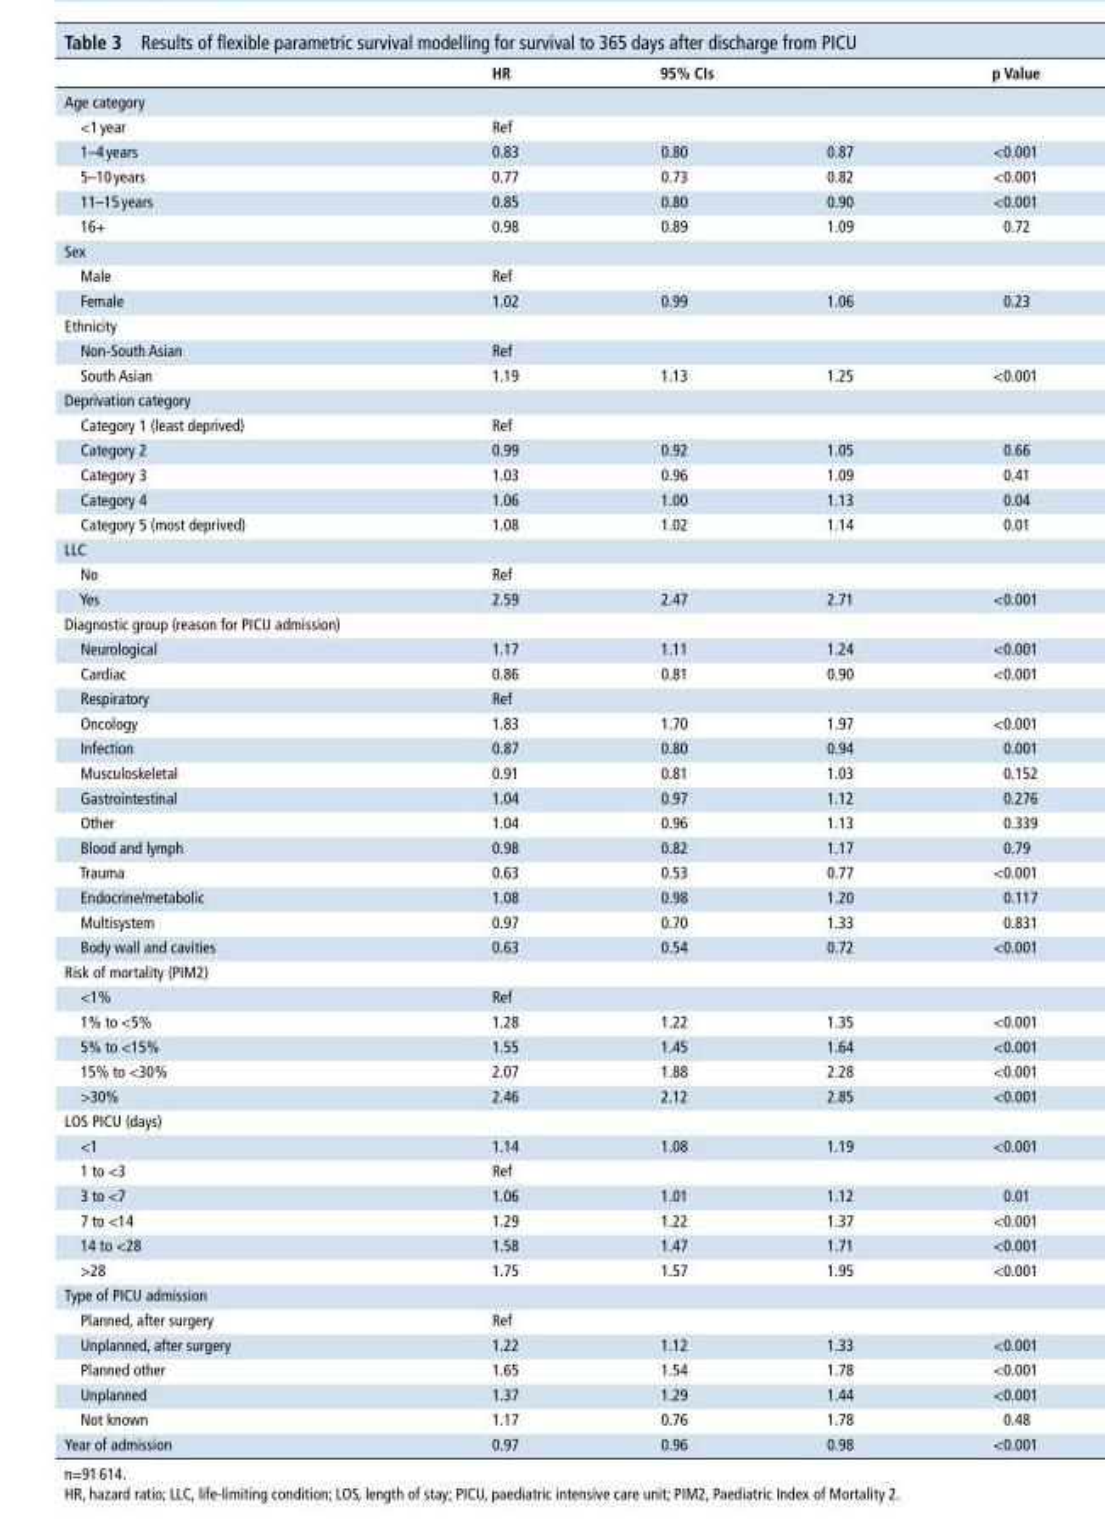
<table><thead><tr><td rowspan="2">Age category</td><td rowspan="2">hr</td><td colspan="2">95% CIs</td><td rowspan="2">p Value</td></tr><tr><td></td><td></td></tr></thead><tbody><tr><td>&lt;1 year</td><td colspan="4">Ref</td></tr><tr><td>1–4 years</td><td>0.83</td><td>0.80</td><td>0.87</td><td>&lt;0.001</td></tr><tr><td>5–10 years</td><td>0.77</td><td>0.73</td><td>0.82</td><td>&lt;0.001</td></tr><tr><td>11–15 years</td><td>0.85</td><td>0.80</td><td>0.90</td><td>&lt;0.001</td></tr><tr><td>16+</td><td>0.98</td><td>0.89</td><td>1.09</td><td>0.72</td></tr><tr><td colspan="5">Sex</td></tr><tr><td>Male</td><td colspan="4">Ref</td></tr><tr><td>Female</td><td>1.02</td><td>0.99</td><td>1.06</td><td>0.23</td></tr><tr><td colspan="5">Ethnicity</td></tr><tr><td>Non-South Asian</td><td colspan="4">Ref</td></tr><tr><td>South Asian</td><td>1.19</td><td>1.13</td><td>1.25</td><td>&lt;0.001</td></tr><tr><td colspan="5">Deprivation category</td></tr><tr><td>Category 1 (least deprived)</td><td colspan="4">Ref</td></tr><tr><td>Category 2</td><td>0.99</td><td>0.92</td><td>1.05</td><td>0.66</td></tr><tr><td>Category 3</td><td>1.03</td><td>0.96</td><td>1.09</td><td>0.41</td></tr><tr><td>Category 4</td><td>1.06</td><td>1.00</td><td>1.13</td><td>0.04</td></tr><tr><td>Category 5 (most deprived)</td><td>1.08</td><td>1.02</td><td>1.14</td><td>0.01</td></tr><tr><td colspan="5">LLC</td></tr><tr><td>No</td><td colspan="4">Ref</td></tr><tr><td>Yes</td><td>2.59</td><td>2.47</td><td>2.71</td><td>&lt;0.001</td></tr><tr><td colspan="5">Diagnostic group (reason for PICU admission)</td></tr><tr><td>Neurological</td><td>1.17</td><td>1.11</td><td>1.24</td><td>&lt;0.001</td></tr><tr><td>Cardiac</td><td>0.86</td><td>0.81</td><td>0.90</td><td>&lt;0.001</td></tr><tr><td>Respiratory</td><td colspan="4">Ref</td></tr><tr><td>Oncology</td><td>1.83</td><td>1.70</td><td>1.97</td><td>&lt;0.001</td></tr><tr><td>Infection</td><td>0.87</td><td>0.80</td><td>0.94</td><td>0.001</td></tr><tr><td>Musculoskeletal</td><td>0.91</td><td>0.81</td><td>1.03</td><td>0.152</td></tr><tr><td>Gastrointestinal</td><td>1.04</td><td>0.97</td><td>1.12</td><td>0.276</td></tr><tr><td>Other</td><td>1.04</td><td>0.96</td><td>1.13</td><td>0.339</td></tr><tr><td>Blood and lymph</td><td>0.98</td><td>0.82</td><td>1.17</td><td>0.79</td></tr><tr><td>Trauma</td><td>0.63</td><td>0.53</td><td>0.77</td><td>&lt;0.001</td></tr><tr><td>Endocrine/metabolic</td><td>1.08</td><td>0.98</td><td>1.20</td><td>0.117</td></tr><tr><td>Multisystem</td><td>0.97</td><td>0.70</td><td>1.33</td><td>0.831</td></tr><tr><td>Body wall and cavities</td><td>0.63</td><td>0.54</td><td>0.72</td><td>&lt;0.001</td></tr><tr><td colspan="5">Risk of mortality (PIM2)</td></tr><tr><td>&lt;1%</td><td colspan="4">Ref</td></tr><tr><td>1% to &lt;5%</td><td>1.28</td><td>1.22</td><td>1.35</td><td>&lt;0.001</td></tr><tr><td>5% to &lt;15%</td><td>1.55</td><td>1.45</td><td>1.64</td><td>&lt;0.001</td></tr><tr><td>15% to &lt;30%</td><td>2.07</td><td>1.88</td><td>2.28</td><td>&lt;0.001</td></tr><tr><td>&gt;30%</td><td>2.46</td><td>2.12</td><td>2.85</td><td>&lt;0.001</td></tr><tr><td colspan="5">LOS PICU (days)</td></tr><tr><td>&lt;1</td><td>1.14</td><td>1.08</td><td>1.19</td><td>&lt;0.001</td></tr><tr><td>1 to &lt;3</td><td colspan="4">Ref</td></tr><tr><td>3 to &lt;7</td><td>1.06</td><td>1.01</td><td>1.12</td><td>0.01</td></tr><tr><td>7 to &lt;14</td><td>1.29</td><td>1.22</td><td>1.37</td><td>&lt;0.001</td></tr><tr><td>14 to &lt;28</td><td>1.58</td><td>1.47</td><td>1.71</td><td>&lt;0.001</td></tr><tr><td>&gt;28</td><td>1.75</td><td>1.57</td><td>1.95</td><td>&lt;0.001</td></tr><tr><td colspan="5">Type of PICU admission</td></tr><tr><td>Planned, after surgery</td><td colspan="4">Ref</td></tr><tr><td>Unplanned, after surgery</td><td>1.22</td><td>1.12</td><td>1.33</td><td>&lt;0.001</td></tr><tr><td>Planned other</td><td>1.65</td><td>1.54</td><td>1.78</td><td>&lt;0.001</td></tr><tr><td>Unplanned</td><td>1.37</td><td>1.29</td><td>1.44</td><td>&lt;0.001</td></tr><tr><td>Not known</td><td>1.17</td><td>0.76</td><td>1.78</td><td>0.48</td></tr><tr><td>Year of admission</td><td>0.97</td><td>0.96</td><td>0.98</td><td>&lt;0.001</td></tr></tbody></table>